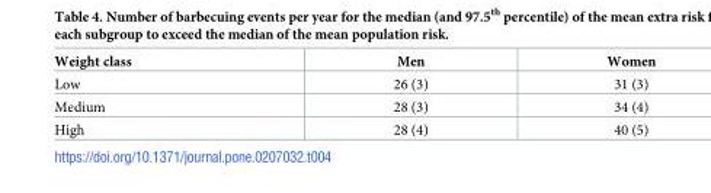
<table><thead><tr><td>Weight class</td><td>Men</td><td>Women</td></tr></thead><tbody><tr><td>Low</td><td>26 (3)</td><td>31 (3)</td></tr><tr><td>Medium</td><td>28 (3)</td><td>34 (4)</td></tr><tr><td>High</td><td>28 (4)</td><td>40 (5)</td></tr></tbody></table>